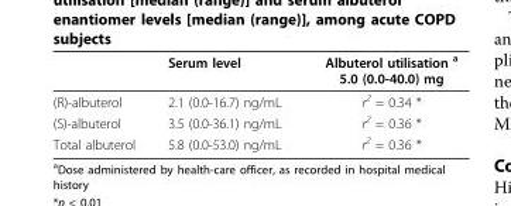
<table><thead><tr><td></td><td>Serum level</td><td>Albuterol utilisation <sup>a</sup> 5.0 (0.0-40.0) mg</td></tr></thead><tbody><tr><td>(R)-albuterol</td><td>2.1 (0.0-16.7) ng/mL</td><td>r<sup>2</sup> = 0.34 *</td></tr><tr><td>(S)-albuterol</td><td>3.5 (0.0-36.1) ng/mL</td><td>r<sup>2</sup> = 0.36 *</td></tr><tr><td>Total albuterol</td><td>5.8 (0.0-53.0) ng/mL</td><td>r<sup>2</sup> = 0.36 *</td></tr></tbody></table>